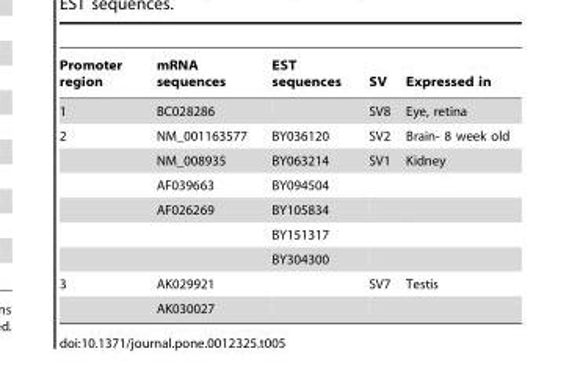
<table><thead><tr><td>Promoter region</td><td>mRNA sequences</td><td>EST sequences</td><td>SV</td><td>Expressed in</td></tr></thead><tbody><tr><td>1</td><td>BC028286</td><td></td><td>SV8</td><td>Eye, retina</td></tr><tr><td rowspan="6">2</td><td>NM_001163577</td><td>BY036120</td><td>SV2</td><td>Brain- 8 week old</td></tr><tr><td>NM_008935</td><td>BY063214</td><td>SV1</td><td>Kidney</td></tr><tr><td>AF039663</td><td>BY094504</td><td></td><td></td></tr><tr><td>AF026269</td><td>BY105834</td><td></td><td></td></tr><tr><td></td><td>BY151317</td><td></td><td></td></tr><tr><td></td><td>BY304300</td><td></td><td></td></tr><tr><td rowspan="2">3</td><td>AK029921</td><td></td><td>SV7</td><td>Testis</td></tr><tr><td>AK030027</td><td></td><td></td><td></td></tr></tbody></table>